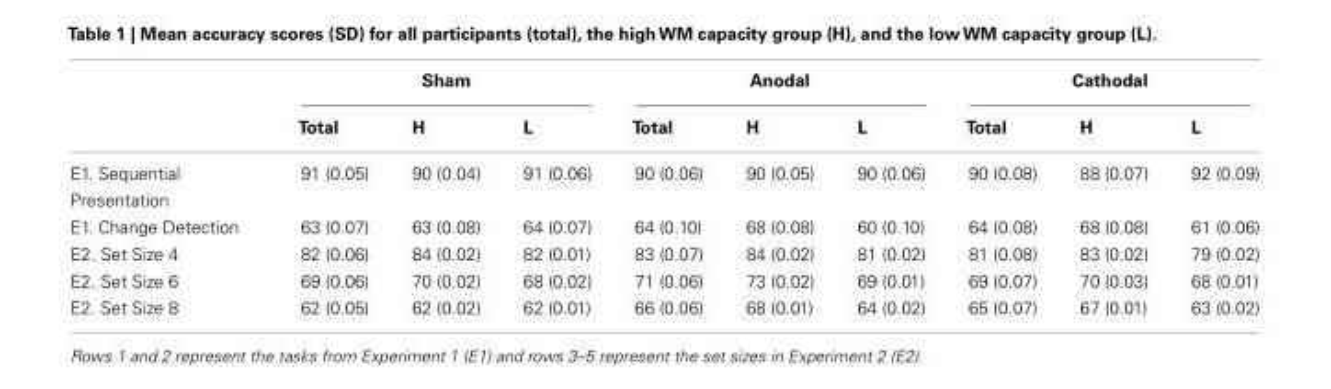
<table><thead><tr><td rowspan="2"></td><td colspan="3">Sham</td><td colspan="3">Anodal</td><td colspan="3">Cathodal</td></tr><tr><td>Total</td><td>H</td><td>L</td><td>Total</td><td>H</td><td>L</td><td>Total</td><td>H</td><td>L</td></tr></thead><tbody><tr><td>E1. Sequential Presentation</td><td>91 (0.05)</td><td>90 (0.04)</td><td>91 (0.06)</td><td>90 (0.06)</td><td>90 (0.05)</td><td>90 (0.06)</td><td>90 (0.08)</td><td>88 (0.07)</td><td>92 (0.09)</td></tr><tr><td>E1. Change Detection</td><td>63 (0.07)</td><td>63 (0.08)</td><td>64 (0.07)</td><td>64 (0.10)</td><td>68 (0.08)</td><td>60 (0.10)</td><td>64 (0.08)</td><td>68 (0.08)</td><td>61 (0.06)</td></tr><tr><td>E2. Set Size 4</td><td>82 (0.06)</td><td>84 (0.02)</td><td>82 (0.01)</td><td>83 (0.07)</td><td>84 (0.02)</td><td>81 (0.02)</td><td>81 (0.08)</td><td>83 (0.02)</td><td>79 (0.02)</td></tr><tr><td>E2. Set Size 6</td><td>69 (0.06)</td><td>70 (0.02)</td><td>68 (0.02)</td><td>71 (0.06)</td><td>73 (0.02)</td><td>69 (0.01)</td><td>69 (0.07)</td><td>70 (0.03)</td><td>68 (0.01)</td></tr><tr><td>E2. Set Size 8</td><td>62 (0.05)</td><td>62 (0.02)</td><td>62 (0.01)</td><td>66 (0.06)</td><td>68 (0.01)</td><td>64 (0.02)</td><td>65 (0.07)</td><td>67 (0.01)</td><td>63 (0.02)</td></tr></tbody></table>